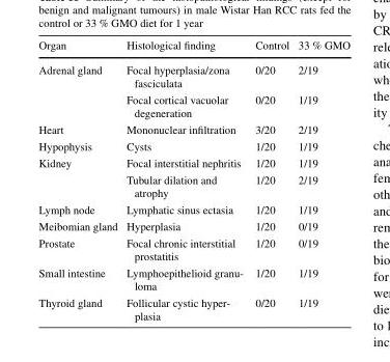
<table><thead><tr><td>Organ</td><td>Histological finding</td><td>Control</td><td>33 % GMO</td></tr></thead><tbody><tr><td rowspan="2">Adrenal gland</td><td>Focal hyperplasia/zona fasciculata</td><td>0/20</td><td>2/19</td></tr><tr><td>Focal cortical vacuolar degeneration</td><td>0/20</td><td>1/19</td></tr><tr><td>Heart</td><td>Mononuclear infiltration</td><td>3/20</td><td>2/19</td></tr><tr><td>Hypophysis</td><td>Cysts</td><td>1/20</td><td>1/19</td></tr><tr><td rowspan="2">Kidney</td><td>Focal interstitial nephritis</td><td>1/20</td><td>1/19</td></tr><tr><td>Tubular dilation and atrophy</td><td>1/20</td><td>2/19</td></tr><tr><td>Lymph node</td><td>Lymphatic sinus ectasia</td><td>1/20</td><td>1/19</td></tr><tr><td>Meibomian gland</td><td>Hyperplasia</td><td>1/20</td><td>0/19</td></tr><tr><td>Prostate</td><td>Focal chronic interstitial prostatitis</td><td>1/20</td><td>0/19</td></tr><tr><td>Small intestine</td><td>Lymphoepithelioid granu- loma</td><td>1/20</td><td>1/19</td></tr><tr><td>Thyroid gland</td><td>Follicular cystic hyper- plasia</td><td>0/20</td><td>1/19</td></tr></tbody></table>